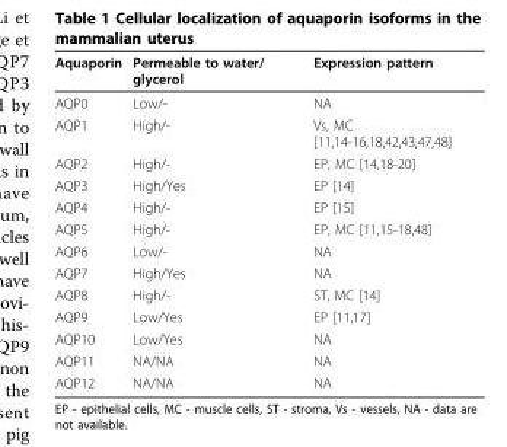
<table><thead><tr><td>Aquaporin</td><td>Permeable to water/ glycerol</td><td>Expression pattern</td></tr></thead><tbody><tr><td>AQP0</td><td>Low/-</td><td>NA</td></tr><tr><td>AQP1</td><td>High/-</td><td>Vs, MC [11,14-16,18,42,43,47,48]</td></tr><tr><td>AQP2</td><td>High/-</td><td>EP, MC [14,18-20]</td></tr><tr><td>AQP3</td><td>High/Yes</td><td>EP [14]</td></tr><tr><td>AQP4</td><td>High/-</td><td>EP [15]</td></tr><tr><td>AQP5</td><td>High/-</td><td>EP, MC [11,15-18,48]</td></tr><tr><td>AQP6</td><td>Low/-</td><td>NA</td></tr><tr><td>AQP7</td><td>High/Yes</td><td>NA</td></tr><tr><td>AQP8</td><td>High/-</td><td>ST, MC [14]</td></tr><tr><td>AQP9</td><td>Low/Yes</td><td>EP [11,17]</td></tr><tr><td>AQP10</td><td>Low/Yes</td><td>NA</td></tr><tr><td>AQP11</td><td>NA/NA</td><td>NA</td></tr><tr><td>AQP12</td><td>NA/NA</td><td>NA</td></tr></tbody></table>